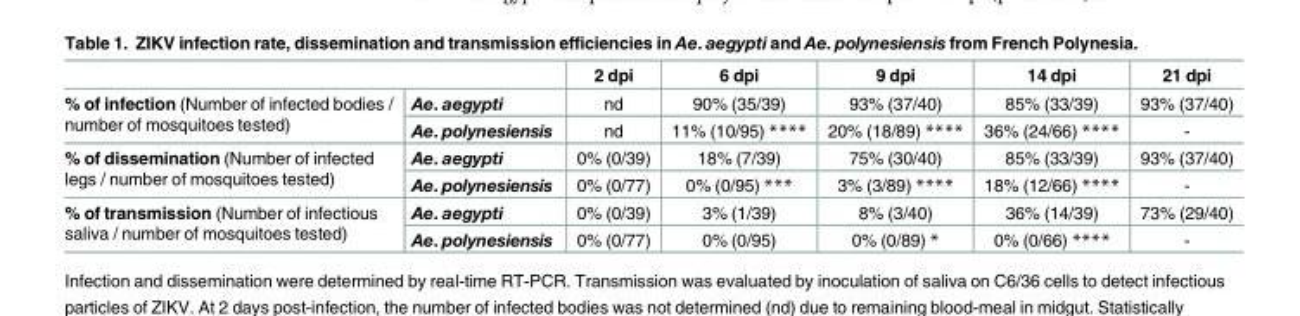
<table><thead><tr><td></td><td></td><td>2 dpi</td><td>6 dpi</td><td>9 dpi</td><td>14 dpi</td><td>21 dpi</td></tr></thead><tbody><tr><td rowspan="2">% of infection (Number of infected bodies / number of mosquitoes tested)</td><td>Ae. aegypti</td><td>nd</td><td>90% (35/39)</td><td>93% (37/40)</td><td>85% (33/39)</td><td>93% (37/40)</td></tr><tr><td>Ae. polynesiensis</td><td>nd</td><td>11% (10/95) ****</td><td>20% (18/89) ****</td><td>36% (24/66) ****</td><td>-</td></tr><tr><td rowspan="2">% of dissemination (Number of infected legs / number of mosquitoes tested)</td><td>Ae. aegypti</td><td>0% (0/39)</td><td>18% (7/39)</td><td>75% (30/40)</td><td>85% (33/39)</td><td>93% (37/40)</td></tr><tr><td>Ae. polynesiensis</td><td>0% (0/77)</td><td>0% (0/95) ***</td><td>3% (3/89) ****</td><td>18% (12/66) ****</td><td>-</td></tr><tr><td rowspan="2">% of transmission (Number of infectious saliva / number of mosquitoes tested)</td><td>Ae. aegypti</td><td>0% (0/39)</td><td>3% (1/39)</td><td>8% (3/40)</td><td>36% (14/39)</td><td>73% (29/40)</td></tr><tr><td>Ae. polynesiensis</td><td>0% (0/77)</td><td>0% (0/95)</td><td>0% (0/89) *</td><td>0% (0/66) ****</td><td>-</td></tr></tbody></table>